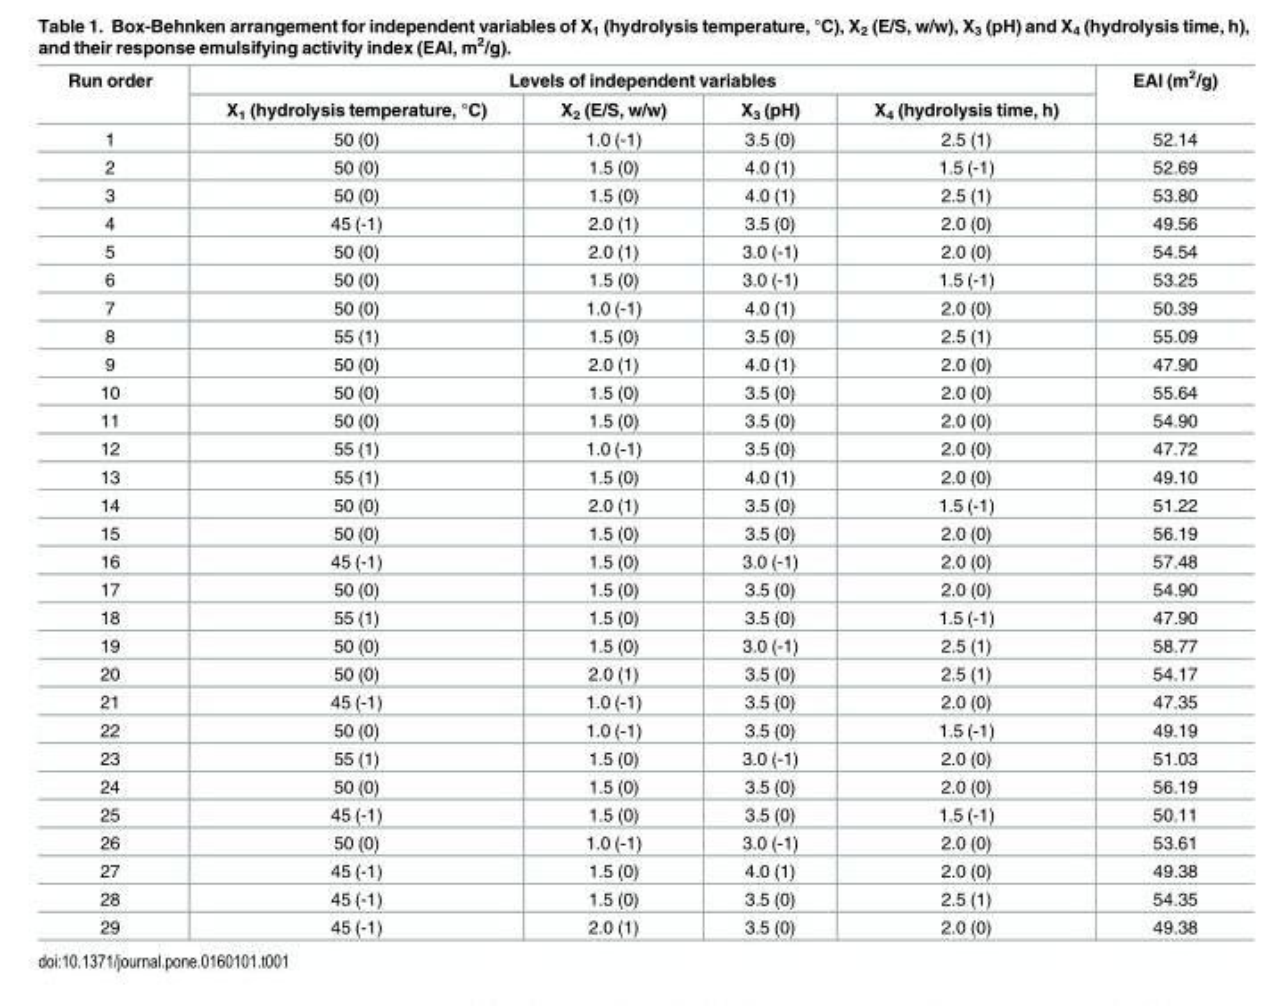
<table><thead><tr><td rowspan="2">Run order</td><td colspan="4">Levels of independent variables</td><td rowspan="2">EAI (m<sup>2</sup>/g)</td></tr><tr><td>X<sub>1</sub> (hydrolysis temperature, °C)</td><td>X<sub>2</sub> (E/S, w/w)</td><td>X<sub>3</sub> (pH)</td><td>X<sub>4</sub> (hydrolysis time, h)</td></tr></thead><tbody><tr><td>1</td><td>50 (0)</td><td>1.0 (-1)</td><td>3.5 (0)</td><td>2.5 (1)</td><td>52.14</td></tr><tr><td>2</td><td>50 (0)</td><td>1.5 (0)</td><td>4.0 (1)</td><td>1.5 (-1)</td><td>52.69</td></tr><tr><td>3</td><td>50 (0)</td><td>1.5 (0)</td><td>4.0 (1)</td><td>2.5 (1)</td><td>53.80</td></tr><tr><td>4</td><td>45 (-1)</td><td>2.0 (1)</td><td>3.5 (0)</td><td>2.0 (0)</td><td>49.56</td></tr><tr><td>5</td><td>50 (0)</td><td>2.0 (1)</td><td>3.0 (-1)</td><td>2.0 (0)</td><td>54.54</td></tr><tr><td>6</td><td>50 (0)</td><td>1.5 (0)</td><td>3.0 (-1)</td><td>1.5 (-1)</td><td>53.25</td></tr><tr><td>7</td><td>50 (0)</td><td>1.0 (-1)</td><td>4.0 (1)</td><td>2.0 (0)</td><td>50.39</td></tr><tr><td>8</td><td>55 (1)</td><td>1.5 (0)</td><td>3.5 (0)</td><td>2.5 (1)</td><td>55.09</td></tr><tr><td>9</td><td>50 (0)</td><td>2.0 (1)</td><td>4.0 (1)</td><td>2.0 (0)</td><td>47.90</td></tr><tr><td>10</td><td>50 (0)</td><td>1.5 (0)</td><td>3.5 (0)</td><td>2.0 (0)</td><td>55.64</td></tr><tr><td>11</td><td>50 (0)</td><td>1.5 (0)</td><td>3.5 (0)</td><td>2.0 (0)</td><td>54.90</td></tr><tr><td>12</td><td>55 (1)</td><td>1.0 (-1)</td><td>3.5 (0)</td><td>2.0 (0)</td><td>47.72</td></tr><tr><td>13</td><td>55 (1)</td><td>1.5 (0)</td><td>4.0 (1)</td><td>2.0 (0)</td><td>49.10</td></tr><tr><td>14</td><td>50 (0)</td><td>2.0 (1)</td><td>3.5 (0)</td><td>1.5 (-1)</td><td>51.22</td></tr><tr><td>15</td><td>50 (0)</td><td>1.5 (0)</td><td>3.5 (0)</td><td>2.0 (0)</td><td>56.19</td></tr><tr><td>16</td><td>45 (-1)</td><td>1.5 (0)</td><td>3.0 (-1)</td><td>2.0 (0)</td><td>57.48</td></tr><tr><td>17</td><td>50 (0)</td><td>1.5 (0)</td><td>3.5 (0)</td><td>2.0 (0)</td><td>54.90</td></tr><tr><td>18</td><td>55 (1)</td><td>1.5 (0)</td><td>3.5 (0)</td><td>1.5 (-1)</td><td>47.90</td></tr><tr><td>19</td><td>50 (0)</td><td>1.5 (0)</td><td>3.0 (-1)</td><td>2.5 (1)</td><td>58.77</td></tr><tr><td>20</td><td>50 (0)</td><td>2.0 (1)</td><td>3.5 (0)</td><td>2.5 (1)</td><td>54.17</td></tr><tr><td>21</td><td>45 (-1)</td><td>1.0 (-1)</td><td>3.5 (0)</td><td>2.0 (0)</td><td>47.35</td></tr><tr><td>22</td><td>50 (0)</td><td>1.0 (-1)</td><td>3.5 (0)</td><td>1.5 (-1)</td><td>49.19</td></tr><tr><td>23</td><td>55 (1)</td><td>1.5 (0)</td><td>3.0 (-1)</td><td>2.0 (0)</td><td>51.03</td></tr><tr><td>24</td><td>50 (0)</td><td>1.5 (0)</td><td>3.5 (0)</td><td>2.0 (0)</td><td>56.19</td></tr><tr><td>25</td><td>45 (-1)</td><td>1.5 (0)</td><td>3.5 (0)</td><td>1.5 (-1)</td><td>50.11</td></tr><tr><td>26</td><td>50 (0)</td><td>1.0 (-1)</td><td>3.0 (-1)</td><td>2.0 (0)</td><td>53.61</td></tr><tr><td>27</td><td>45 (-1)</td><td>1.5 (0)</td><td>4.0 (1)</td><td>2.0 (0)</td><td>49.38</td></tr><tr><td>28</td><td>45 (-1)</td><td>1.5 (0)</td><td>3.5 (0)</td><td>2.5 (1)</td><td>54.35</td></tr><tr><td>29</td><td>45 (-1)</td><td>2.0 (1)</td><td>3.5 (0)</td><td>2.0 (0)</td><td>49.38</td></tr></tbody></table>